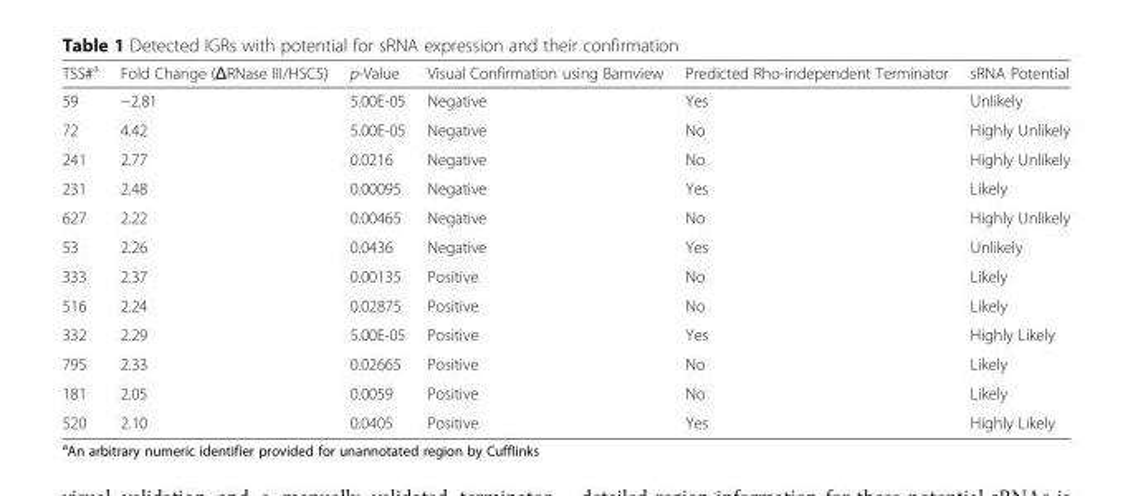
<table><thead><tr><td>TSS#<sup>a</sup></td><td>Fold Change (ΔRNase III/HSC5)</td><td>p-Value</td><td>Visual Confirmation using Bamview</td><td>Predicted Rho-independent Terminator</td><td>sRNA Potential</td></tr></thead><tbody><tr><td>59</td><td>−2.81</td><td>5.00E-05</td><td>Negative</td><td>Yes</td><td>Unlikely</td></tr><tr><td>72</td><td>4.42</td><td>5.00E-05</td><td>Negative</td><td>No</td><td>Highly Unlikely</td></tr><tr><td>241</td><td>2.77</td><td>0.0216</td><td>Negative</td><td>No</td><td>Highly Unlikely</td></tr><tr><td>231</td><td>2.48</td><td>0.00095</td><td>Negative</td><td>Yes</td><td>Likely</td></tr><tr><td>627</td><td>2.22</td><td>0.00465</td><td>Negative</td><td>No</td><td>Highly Unlikely</td></tr><tr><td>53</td><td>2.26</td><td>0.0436</td><td>Negative</td><td>Yes</td><td>Unlikely</td></tr><tr><td>333</td><td>2.37</td><td>0.00135</td><td>Positive</td><td>No</td><td>Likely</td></tr><tr><td>516</td><td>2.24</td><td>0.02875</td><td>Positive</td><td>No</td><td>Likely</td></tr><tr><td>332</td><td>2.29</td><td>5.00E-05</td><td>Positive</td><td>Yes</td><td>Highly Likely</td></tr><tr><td>795</td><td>2.33</td><td>0.02665</td><td>Positive</td><td>No</td><td>Likely</td></tr><tr><td>181</td><td>2.05</td><td>0.0059</td><td>Positive</td><td>No</td><td>Likely</td></tr><tr><td>520</td><td>2.10</td><td>0.0405</td><td>Positive</td><td>Yes</td><td>Highly Likely</td></tr></tbody></table>